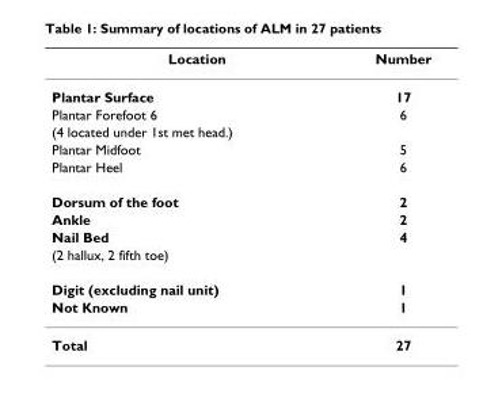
<table><thead><tr><td>Location</td><td>Number</td></tr></thead><tbody><tr><td>Plantar Surface</td><td>17</td></tr><tr><td>Plantar Forefoot 6</td><td>6</td></tr><tr><td colspan="2">(4 located under 1st met head.)</td></tr><tr><td>Plantar Midfoot</td><td>5</td></tr><tr><td>Plantar Heel</td><td>6</td></tr><tr><td>Dorsum of the foot</td><td>2</td></tr><tr><td>Ankle</td><td>2</td></tr><tr><td>Nail Bed</td><td>4</td></tr><tr><td colspan="2">(2 hallux, 2 fifth toe)</td></tr><tr><td>Digit (excluding nail unit)</td><td>1</td></tr><tr><td>Not Known</td><td>1</td></tr><tr><td>Total</td><td>27</td></tr></tbody></table>